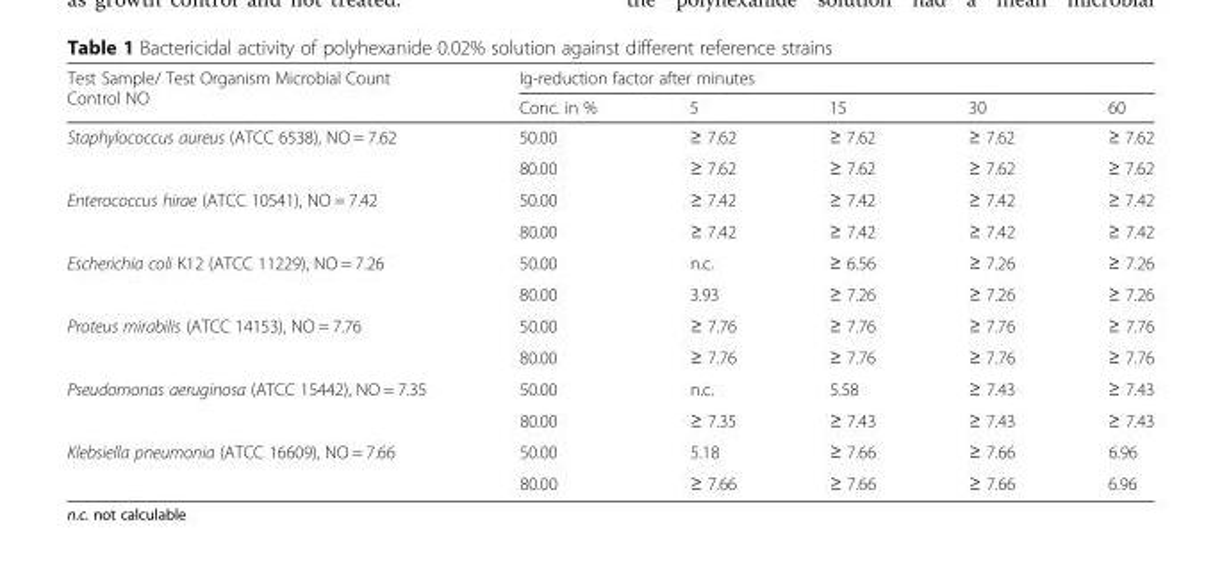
<table><thead><tr><td rowspan="2">Test Sample/ Test Organism Microbial Count Control NO</td><td colspan="5">Ig-reduction factor after minutes</td></tr><tr><td>Conc. in %</td><td>5</td><td>15</td><td>30</td><td>60</td></tr></thead><tbody><tr><td rowspan="2">Staphylococcus aureus (ATCC 6538), NO = 7.62</td><td>50.00</td><td>≥ 7.62</td><td>≥ 7.62</td><td>≥ 7.62</td><td>≥ 7.62</td></tr><tr><td>80.00</td><td>≥ 7.62</td><td>≥ 7.62</td><td>≥ 7.62</td><td>≥ 7.62</td></tr><tr><td rowspan="2">Enterococcus hirae (ATCC 10541), NO = 7.42</td><td>50.00</td><td>≥ 7.42</td><td>≥ 7.42</td><td>≥ 7.42</td><td>≥ 7.42</td></tr><tr><td>80.00</td><td>≥ 7.42</td><td>≥ 7.42</td><td>≥ 7.42</td><td>≥ 7.42</td></tr><tr><td rowspan="2">Escherichia coli K12 (ATCC 11229), NO = 7.26</td><td>50.00</td><td>n.c.</td><td>≥ 6.56</td><td>≥ 7.26</td><td>≥ 7.26</td></tr><tr><td>80.00</td><td>3.93</td><td>≥ 7.26</td><td>≥ 7.26</td><td>≥ 7.26</td></tr><tr><td rowspan="2">Proteus mirabilis (ATCC 14153), NO = 7.76</td><td>50.00</td><td>≥ 7.76</td><td>≥ 7.76</td><td>≥ 7.76</td><td>≥ 7.76</td></tr><tr><td>80.00</td><td>≥ 7.76</td><td>≥ 7.76</td><td>≥ 7.76</td><td>≥ 7.76</td></tr><tr><td rowspan="2">Pseudomonas aeruginosa (ATCC 15442), NO = 7.35</td><td>50.00</td><td>n.c.</td><td>5.58</td><td>≥ 7.43</td><td>≥ 7.43</td></tr><tr><td>80.00</td><td>≥ 7.35</td><td>≥ 7.43</td><td>≥ 7.43</td><td>≥ 7.43</td></tr><tr><td rowspan="2">Klebsiella pneumonia (ATCC 16609), NO = 7.66</td><td>50.00</td><td>5.18</td><td>≥ 7.66</td><td>≥ 7.66</td><td>6.96</td></tr><tr><td>80.00</td><td>≥ 7.66</td><td>≥ 7.66</td><td>≥ 7.66</td><td>6.96</td></tr></tbody></table>